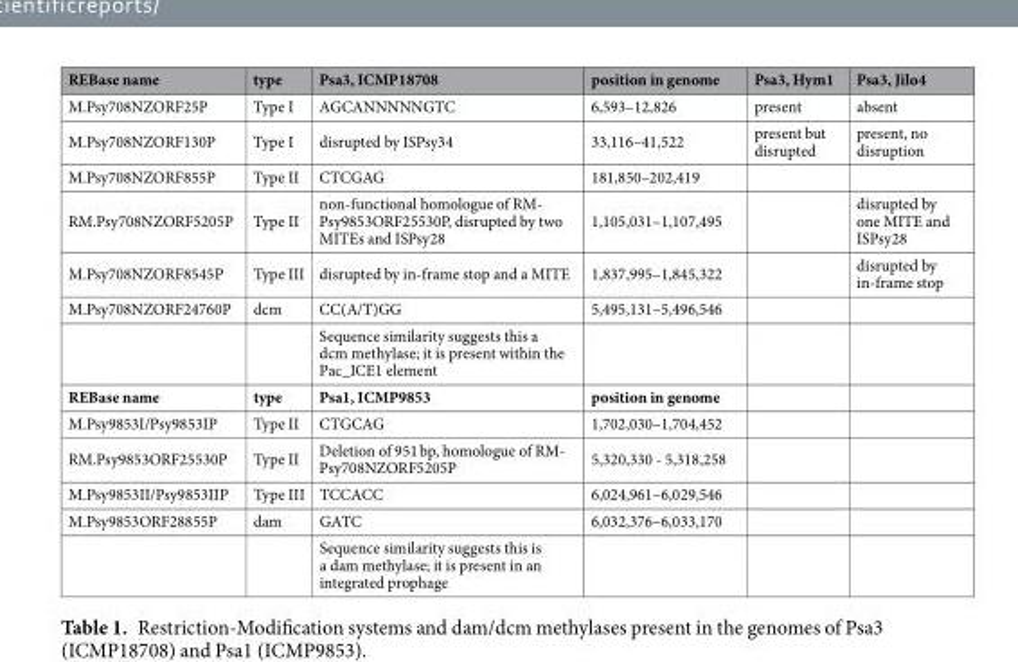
<table><thead><tr><td>REBase name</td><td>type</td><td>Psa3, ICMP18708</td><td>position in genome</td><td>Psa3, Hym1</td><td>Psa3, Jilo4</td></tr></thead><tbody><tr><td>M.Psy708NZORF25P</td><td>Type I</td><td>AGCANNNNNGTC</td><td>6,593–12,826</td><td>present</td><td>absent</td></tr><tr><td>M.Psy708NZORF130P</td><td>Type I</td><td>disrupted by ISPsy34</td><td>33,116–41,522</td><td>present but disrupted</td><td>present, no disruption</td></tr><tr><td>M.Psy708NZORF855P</td><td>Type II</td><td>CTCGAG</td><td>181,850–202,419</td><td></td><td></td></tr><tr><td>RM.Psy708NZORF5205P</td><td>Type II</td><td>non-functional homologue of RM- Psy9853ORF25530P, disrupted by two MITEs and ISPsy28</td><td>1,105,031–1,107,495</td><td></td><td>disrupted by one MITE and ISPsy28</td></tr><tr><td>M.Psy708NZORF8545P</td><td>Type III</td><td>disrupted by in-frame stop and a MITE</td><td>1,837,995–1,845,322</td><td></td><td>disrupted by in-frame stop</td></tr><tr><td rowspan="2">M.Psy708NZORF24760P</td><td>dcm</td><td>CC(A/T)GG</td><td>5,495,131–5,496,546</td><td></td><td></td></tr><tr><td></td><td>Sequence similarity suggests this a dcm methylase; it is present within the Pac_ICE1 element</td><td></td><td></td><td></td></tr><tr><td>REBase name</td><td>type</td><td>Psa1, ICMP9853</td><td>position in genome</td><td></td><td></td></tr><tr><td>M.Psy9853I/Psy9853IP</td><td>Type II</td><td>CTGCAG</td><td>1,702,030–1,704,452</td><td></td><td></td></tr><tr><td>RM.Psy9853ORF25530P</td><td>Type II</td><td>Deletion of 951 bp, homologue of RM- Psy708NZORF5205P</td><td>5,320,330 - 5,318,258</td><td></td><td></td></tr><tr><td>M.Psy9853II/Psy9853IIP</td><td>Type III</td><td>TCCACC</td><td>6,024,961–6,029,546</td><td></td><td></td></tr><tr><td rowspan="2">M.Psy9853ORF28855P</td><td>dam</td><td>GATC</td><td>6,032,376–6,033,170</td><td></td><td></td></tr><tr><td></td><td>Sequence similarity suggests this is a dam methylase; it is present in an integrated prophage</td><td></td><td></td><td></td></tr></tbody></table>